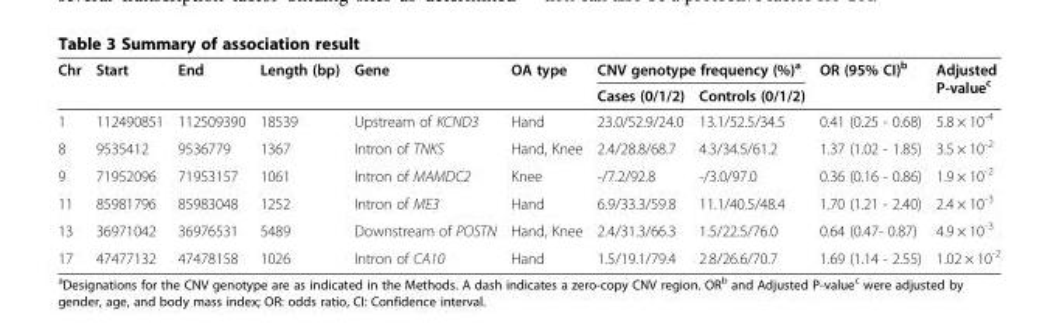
<table><thead><tr><td rowspan="2">Chr</td><td rowspan="2">Start</td><td rowspan="2">End</td><td rowspan="2">Length (bp)</td><td rowspan="2">Gene</td><td rowspan="2">OA type</td><td colspan="2">CNV genotype frequency (%)<sup>a</sup></td><td rowspan="2">OR (95% CI)<sup>b</sup></td><td rowspan="2">Adjusted P-value<sup>c</sup></td></tr><tr><td>Cases (0/1/2)</td><td>Controls (0/1/2)</td></tr></thead><tbody><tr><td>1</td><td>112490851</td><td>112509390</td><td>18539</td><td>Upstream of KCND3</td><td>Hand</td><td>23.0/52.9/24.0</td><td>13.1/52.5/34.5</td><td>0.41 (0.25 - 0.68)</td><td>5.8 × 10<sup>-4</sup></td></tr><tr><td>8</td><td>9535412</td><td>9536779</td><td>1367</td><td>Intron of TNKS</td><td>Hand, Knee</td><td>2.4/28.8/68.7</td><td>4.3/34.5/61.2</td><td>1.37 (1.02 - 1.85)</td><td>3.5 × 10<sup>-2</sup></td></tr><tr><td>9</td><td>71952096</td><td>71953157</td><td>1061</td><td>Intron of MAMDC2</td><td>Knee</td><td>-/7.2/92.8</td><td>-/3.0/97.0</td><td>0.36 (0.16 - 0.86)</td><td>1.9 × 10<sup>-2</sup></td></tr><tr><td>11</td><td>85981796</td><td>85983048</td><td>1252</td><td>Intron of ME3</td><td>Hand</td><td>6.9/33.3/59.8</td><td>11.1/40.5/48.4</td><td>1.70 (1.21 - 2.40)</td><td>2.4 × 10<sup>-3</sup></td></tr><tr><td>13</td><td>36971042</td><td>36976531</td><td>5489</td><td>Downstream of POSTN</td><td>Hand, Knee</td><td>2.4/31.3/66.3</td><td>1.5/22.5/76.0</td><td>0.64 (0.47- 0.87)</td><td>4.9 × 10<sup>-3</sup></td></tr><tr><td>17</td><td>47477132</td><td>47478158</td><td>1026</td><td>Intron of CA10</td><td>Hand</td><td>1.5/19.1/79.4</td><td>2.8/26.6/70.7</td><td>1.69 (1.14 - 2.55)</td><td>1.02 × 10<sup>-2</sup></td></tr></tbody></table>